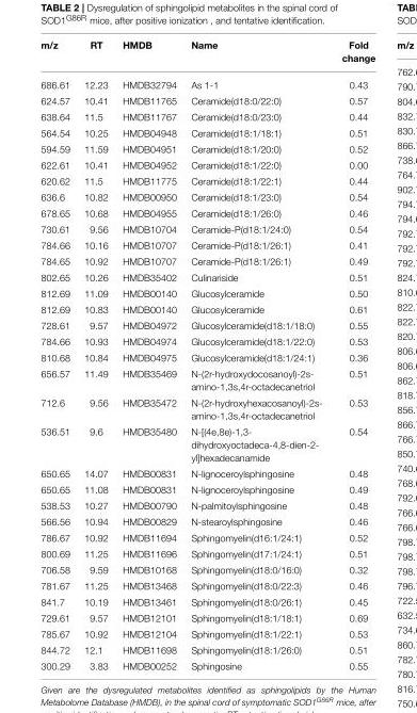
<table><thead><tr><td>m/z</td><td>RT</td><td>HMDB</td><td>Name</td><td>Fold change</td></tr></thead><tbody><tr><td>686.61</td><td>12.23</td><td>HMDB32794</td><td>As 1-1</td><td>0.43</td></tr><tr><td>624.57</td><td>10.41</td><td>HMDB11765</td><td>Ceramide(d18:0/22:0)</td><td>0.57</td></tr><tr><td>638.64</td><td>11.5</td><td>HMDB11767</td><td>Ceramide(d18:0/23:0)</td><td>0.44</td></tr><tr><td>564.54</td><td>10.25</td><td>HMDB04948</td><td>Ceramide(d18:1/18:1)</td><td>0.51</td></tr><tr><td>594.59</td><td>11.59</td><td>HMDB04951</td><td>Ceramide(d18:1/20:0)</td><td>0.52</td></tr><tr><td>622.61</td><td>10.41</td><td>HMDB04952</td><td>Ceramide(d18:1/22:0)</td><td>0.00</td></tr><tr><td>620.62</td><td>11.5</td><td>HMDB11775</td><td>Ceramide(d18:1/22:1)</td><td>0.44</td></tr><tr><td>636.6</td><td>10.82</td><td>HMDB00950</td><td>Ceramide(d18:1/23:0)</td><td>0.54</td></tr><tr><td>678.65</td><td>10.68</td><td>HMDB04955</td><td>Ceramide(d18:1/26:0)</td><td>0.46</td></tr><tr><td>730.61</td><td>9.56</td><td>HMDB10704</td><td>Ceramide-P(d18:1/24:0)</td><td>0.54</td></tr><tr><td>784.66</td><td>10.16</td><td>HMDB10707</td><td>Ceramide-P(d18:1/26:1)</td><td>0.41</td></tr><tr><td>784.65</td><td>10.92</td><td>HMDB10707</td><td>Ceramide-P(d18:1/26:1)</td><td>0.49</td></tr><tr><td>802.65</td><td>10.26</td><td>HMDB35402</td><td>Culinariside</td><td>0.51</td></tr><tr><td>812.69</td><td>11.09</td><td>HMDB00140</td><td>Glucosylceramide</td><td>0.50</td></tr><tr><td>812.69</td><td>10.83</td><td>HMDB00140</td><td>Glucosylceramide</td><td>0.61</td></tr><tr><td>728.61</td><td>9.57</td><td>HMDB04972</td><td>Glucosylceramide(d18:1/18:0)</td><td>0.55</td></tr><tr><td>784.66</td><td>10.93</td><td>HMDB04974</td><td>Glucosylceramide(d18:1/22:0)</td><td>0.53</td></tr><tr><td>810.68</td><td>10.84</td><td>HMDB04975</td><td>Glucosylceramide(d18:1/24:1)</td><td>0.36</td></tr><tr><td>656.57</td><td>11.49</td><td>HMDB35469</td><td>N-(2r-hydroxydocosanoyl)-2s- amino-1,3s,4r-octadecanetriol</td><td>0.51</td></tr><tr><td>712.6</td><td>9.56</td><td>HMDB35472</td><td>N-(2r-hydroxyhexacosanoyl)-2s- amino-1,3s,4r-octadecanetriol</td><td>0.53</td></tr><tr><td>536.51</td><td>9.6</td><td>HMDB35480</td><td>N-[(4e,8e)-1,3- dihydroxyoctadeca-4,8-dien-2- yl]hexadecanamide</td><td>0.54</td></tr><tr><td>650.65</td><td>14.07</td><td>HMDB00831</td><td>N-lignoceroylsphingosine</td><td>0.48</td></tr><tr><td>650.65</td><td>11.08</td><td>HMDB00831</td><td>N-lignoceroylsphingosine</td><td>0.49</td></tr><tr><td>538.53</td><td>10.27</td><td>HMDB00790</td><td>N-palmitoylsphingosine</td><td>0.48</td></tr><tr><td>566.56</td><td>10.94</td><td>HMDB00829</td><td>N-stearoylsphingosine</td><td>0.46</td></tr><tr><td>786.67</td><td>10.92</td><td>HMDB11694</td><td>Sphingomyelin(d16:1/24:1)</td><td>0.52</td></tr><tr><td>800.69</td><td>11.25</td><td>HMDB11696</td><td>Sphingomyelin(d17:1/24:1)</td><td>0.51</td></tr><tr><td>706.58</td><td>9.59</td><td>HMDB10168</td><td>Sphingomyelin(d18:0/16:0)</td><td>0.32</td></tr><tr><td>781.67</td><td>11.25</td><td>HMDB13468</td><td>Sphingomyelin(d18:0/22:3)</td><td>0.46</td></tr><tr><td>841.7</td><td>10.19</td><td>HMDB13461</td><td>Sphingomyelin(d18:0/26:1)</td><td>0.45</td></tr><tr><td>729.61</td><td>9.57</td><td>HMDB12101</td><td>Sphingomyelin(d18:1/18:1)</td><td>0.69</td></tr><tr><td>785.67</td><td>10.92</td><td>HMDB12104</td><td>Sphingomyelin(d18:1/22:1)</td><td>0.53</td></tr><tr><td>844.72</td><td>12.1</td><td>HMDB11698</td><td>Sphingomyelin(d18:1/26:0)</td><td>0.51</td></tr><tr><td>300.29</td><td>3.83</td><td>HMDB00252</td><td>Sphingosine</td><td>0.55</td></tr></tbody></table>